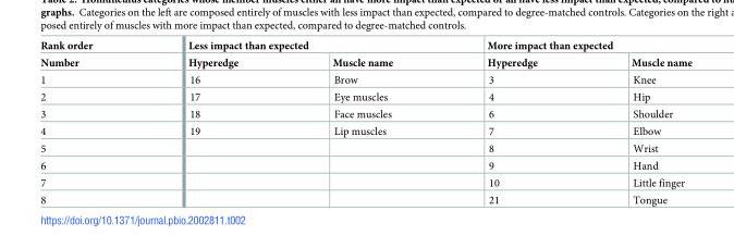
<table><thead><tr><td rowspan="2">Rank order Number</td><td colspan="2">Less impact than expected</td><td colspan="2">More impact than expected</td></tr><tr><td>Hyperedge</td><td>Muscle name</td><td>Hyperedge</td><td>Muscle name</td></tr></thead><tbody><tr><td>1</td><td>16</td><td>Brow</td><td>3</td><td>Knee</td></tr><tr><td>2</td><td>17</td><td>Eye muscles</td><td>4</td><td>Hip</td></tr><tr><td>3</td><td>18</td><td>Face muscles</td><td>6</td><td>Shoulder</td></tr><tr><td>4</td><td>19</td><td>Lip muscles</td><td>7</td><td>Elbow</td></tr><tr><td>5</td><td></td><td></td><td>8</td><td>Wrist</td></tr><tr><td>6</td><td></td><td></td><td>9</td><td>Hand</td></tr><tr><td>7</td><td></td><td></td><td>10</td><td>Little finger</td></tr><tr><td>8</td><td></td><td></td><td>21</td><td>Tongue</td></tr></tbody></table>